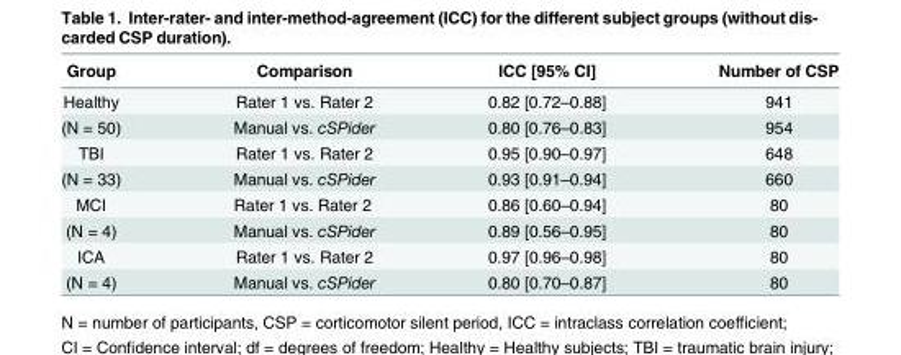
<table><thead><tr><td>Group</td><td>Comparison</td><td>ICC [95% CI]</td><td>Number of CSP</td></tr></thead><tbody><tr><td>Healthy</td><td>Rater 1 vs. Rater 2</td><td>0.82 [0.72–0.88]</td><td>941</td></tr><tr><td>(N = 50)</td><td>Manual vs. cSPider</td><td>0.80 [0.76–0.83]</td><td>954</td></tr><tr><td>TBI</td><td>Rater 1 vs. Rater 2</td><td>0.95 [0.90–0.97]</td><td>648</td></tr><tr><td>(N = 33)</td><td>Manual vs. cSPider</td><td>0.93 [0.91–0.94]</td><td>660</td></tr><tr><td>MCI</td><td>Rater 1 vs. Rater 2</td><td>0.86 [0.60–0.94]</td><td>80</td></tr><tr><td>(N = 4)</td><td>Manual vs. cSPider</td><td>0.89 [0.56–0.95]</td><td>80</td></tr><tr><td>ICA</td><td>Rater 1 vs. Rater 2</td><td>0.97 [0.96–0.98]</td><td>80</td></tr><tr><td>(N = 4)</td><td>Manual vs. cSPider</td><td>0.80 [0.70–0.87]</td><td>80</td></tr></tbody></table>